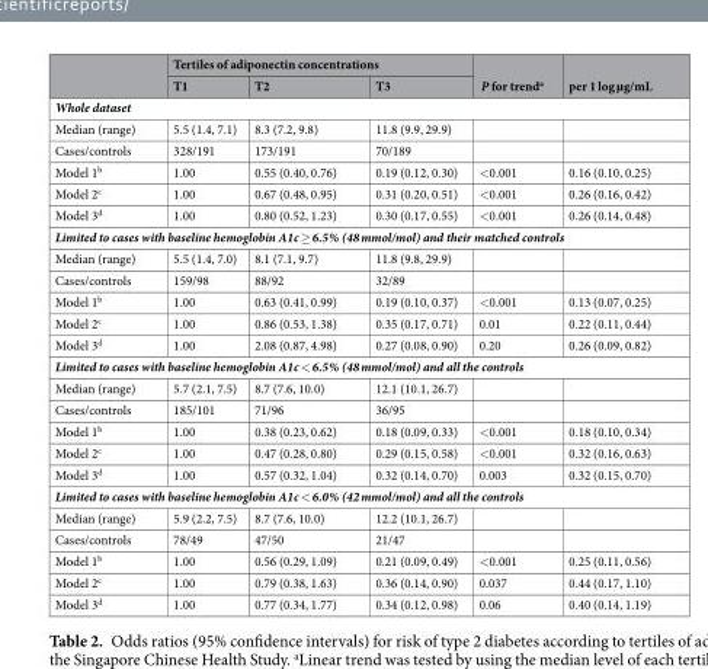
<table><thead><tr><td rowspan="2"></td><td colspan="3">Tertiles of adiponectin concentrations</td><td rowspan="2">P for trend<sup>a</sup></td><td rowspan="2">per 1 log µg/mL</td></tr><tr><td>T1</td><td>T2</td><td>T3</td></tr></thead><tbody><tr><td colspan="6">Whole dataset</td></tr><tr><td>Median (range)</td><td>5.5 (1.4, 7.1)</td><td>8.3 (7.2, 9.8)</td><td>11.8 (9.9, 29.9)</td><td></td><td></td></tr><tr><td>Cases/controls</td><td>328/191</td><td>173/191</td><td>70/189</td><td></td><td></td></tr><tr><td>Model 1<sup>b</sup></td><td>1.00</td><td>0.55 (0.40, 0.76)</td><td>0.19 (0.12, 0.30)</td><td>&lt;0.001</td><td>0.16 (0.10, 0.25)</td></tr><tr><td>Model 2<sup>c</sup></td><td>1.00</td><td>0.67 (0.48, 0.95)</td><td>0.31 (0.20, 0.51)</td><td>&lt;0.001</td><td>0.26 (0.16, 0.42)</td></tr><tr><td>Model 3<sup>d</sup></td><td>1.00</td><td>0.80 (0.52, 1.23)</td><td>0.30 (0.17, 0.55)</td><td>&lt;0.001</td><td>0.26 (0.14, 0.48)</td></tr><tr><td colspan="6">Limited to cases with baseline hemoglobin A1c ≥ 6.5% (48 mmol/mol) and their matched controls</td></tr><tr><td>Median (range)</td><td>5.5 (1.4, 7.0)</td><td>8.1 (7.1, 9.7)</td><td>11.8 (9.8, 29.9)</td><td></td><td></td></tr><tr><td>Cases/controls</td><td>159/98</td><td>88/92</td><td>32/89</td><td></td><td></td></tr><tr><td>Model 1<sup>b</sup></td><td>1.00</td><td>0.63 (0.41, 0.99)</td><td>0.19 (0.10, 0.37)</td><td>&lt;0.001</td><td>0.13 (0.07, 0.25)</td></tr><tr><td>Model 2<sup>c</sup></td><td>1.00</td><td>0.86 (0.53, 1.38)</td><td>0.35 (0.17, 0.71)</td><td>0.01</td><td>0.22 (0.11, 0.44)</td></tr><tr><td>Model 3<sup>d</sup></td><td>1.00</td><td>2.08 (0.87, 4.98)</td><td>0.27 (0.08, 0.90)</td><td>0.20</td><td>0.26 (0.09, 0.82)</td></tr><tr><td colspan="6">Limited to cases with baseline hemoglobin A1c &lt; 6.5% (48 mmol/mol) and all the controls</td></tr><tr><td>Median (range)</td><td>5.7 (2.1, 7.5)</td><td>8.7 (7.6, 10.0)</td><td>12.1 (10.1, 26.7)</td><td></td><td></td></tr><tr><td>Cases/controls</td><td>185/101</td><td>71/96</td><td>36/95</td><td></td><td></td></tr><tr><td>Model 1<sup>b</sup></td><td>1.00</td><td>0.38 (0.23, 0.62)</td><td>0.18 (0.09, 0.33)</td><td>&lt;0.001</td><td>0.18 (0.10, 0.34)</td></tr><tr><td>Model 2<sup>c</sup></td><td>1.00</td><td>0.47 (0.28, 0.80)</td><td>0.29 (0.15, 0.58)</td><td>&lt;0.001</td><td>0.32 (0.16, 0.63)</td></tr><tr><td>Model 3<sup>d</sup></td><td>1.00</td><td>0.57 (0.32, 1.04)</td><td>0.32 (0.14, 0.70)</td><td>0.003</td><td>0.32 (0.15, 0.70)</td></tr><tr><td colspan="6">Limited to cases with baseline hemoglobin A1c &lt; 6.0% (42 mmol/mol) and all the controls</td></tr><tr><td>Median (range)</td><td>5.9 (2.2, 7.5)</td><td>8.7 (7.6, 10.0)</td><td>12.2 (10.1, 26.7)</td><td></td><td></td></tr><tr><td>Cases/controls</td><td>78/49</td><td>47/50</td><td>21/47</td><td></td><td></td></tr><tr><td>Model 1<sup>b</sup></td><td>1.00</td><td>0.56 (0.29, 1.09)</td><td>0.21 (0.09, 0.49)</td><td>&lt;0.001</td><td>0.25 (0.11, 0.56)</td></tr><tr><td>Model 2<sup>c</sup></td><td>1.00</td><td>0.79 (0.38, 1.63)</td><td>0.36 (0.14, 0.90)</td><td>0.037</td><td>0.44 (0.17, 1.10)</td></tr><tr><td>Model 3<sup>d</sup></td><td>1.00</td><td>0.77 (0.34, 1.77)</td><td>0.34 (0.12, 0.98)</td><td>0.06</td><td>0.40 (0.14, 1.19)</td></tr></tbody></table>